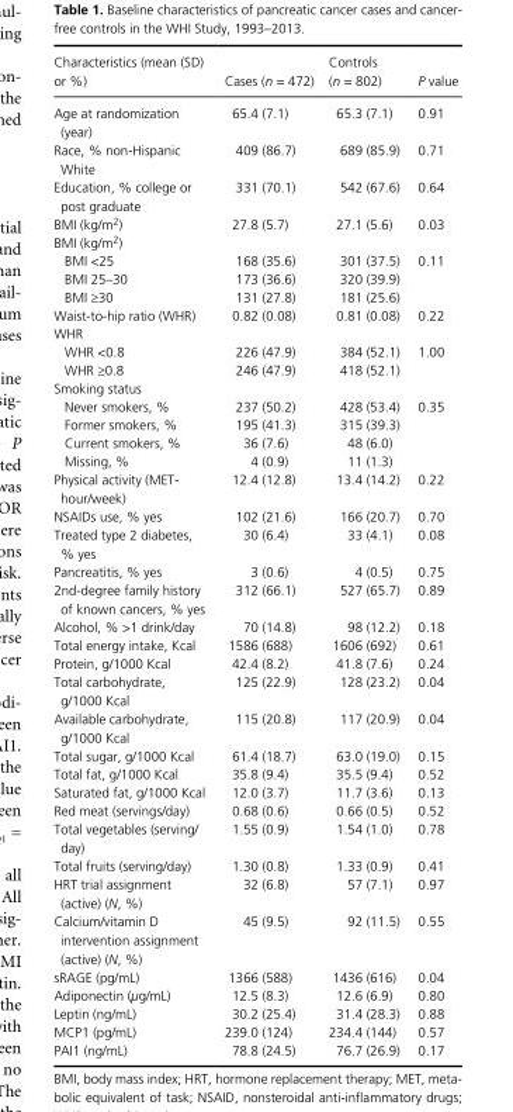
<table><thead><tr><td>Characteristics (mean (SD) or %)</td><td>Cases (n = 472)</td><td>Controls (n = 802)</td><td>P value</td></tr></thead><tbody><tr><td>Age at randomization (year)</td><td>65.4 (7.1)</td><td>65.3 (7.1)</td><td>0.91</td></tr><tr><td>Race, % non- Hispanic White</td><td>409 (86.7)</td><td>689 (85.9)</td><td>0.71</td></tr><tr><td>Education, % college or post graduate</td><td>331 (70.1)</td><td>542 (67.6)</td><td>0.64</td></tr><tr><td>BMI (kg/m<sup>2</sup>)</td><td>27.8 (5.7)</td><td>27.1 (5.6)</td><td>0.03</td></tr><tr><td colspan="4">BMI (kg/m<sup>2</sup>)</td></tr><tr><td>BMI &lt;25</td><td>168 (35.6)</td><td>301 (37.5)</td><td rowspan="3">0.11</td></tr><tr><td>BMI 25–30</td><td>173 (36.6)</td><td>320 (39.9)</td></tr><tr><td>BMI ≥30</td><td>131 (27.8)</td><td>181 (25.6)</td></tr><tr><td>Waist- to- hip ratio (WHR)</td><td>0.82 (0.08)</td><td>0.81 (0.08)</td><td>0.22</td></tr><tr><td colspan="4">WHR</td></tr><tr><td>WHR &lt;0.8</td><td>226 (47.9)</td><td>384 (52.1)</td><td rowspan="2">1.00</td></tr><tr><td>WHR ≥0.8</td><td>246 (47.9)</td><td>418 (52.1)</td></tr><tr><td colspan="4">Smoking status</td></tr><tr><td>Never smokers, %</td><td>237 (50.2)</td><td>428 (53.4)</td><td rowspan="4">0.35</td></tr><tr><td>Former smokers, %</td><td>195 (41.3)</td><td>315 (39.3)</td></tr><tr><td>Current smokers, %</td><td>36 (7.6)</td><td>48 (6.0)</td></tr><tr><td>Missing, %</td><td>4 (0.9)</td><td>11 (1.3)</td></tr><tr><td>Physical activity (MET- hour/week)</td><td>12.4 (12.8)</td><td>13.4 (14.2)</td><td>0.22</td></tr><tr><td>NSAIDs use, % yes</td><td>102 (21.6)</td><td>166 (20.7)</td><td>0.70</td></tr><tr><td>Treated type 2 diabetes, % yes</td><td>30 (6.4)</td><td>33 (4.1)</td><td>0.08</td></tr><tr><td>Pancreatitis, % yes</td><td>3 (0.6)</td><td>4 (0.5)</td><td>0.75</td></tr><tr><td>2nd- degree family history of known cancers, % yes</td><td>312 (66.1)</td><td>527 (65.7)</td><td>0.89</td></tr><tr><td>Alcohol, % &gt;1 drink/day</td><td>70 (14.8)</td><td>98 (12.2)</td><td>0.18</td></tr><tr><td>Total energy intake, Kcal</td><td>1586 (688)</td><td>1606 (692)</td><td>0.61</td></tr><tr><td>Protein, g/1000 Kcal</td><td>42.4 (8.2)</td><td>41.8 (7.6)</td><td>0.24</td></tr><tr><td>Total carbohydrate, g/1000 Kcal</td><td>125 (22.9)</td><td>128 (23.2)</td><td>0.04</td></tr><tr><td>Available carbohydrate, g/1000 Kcal</td><td>115 (20.8)</td><td>117 (20.9)</td><td>0.04</td></tr><tr><td>Total sugar, g/1000 Kcal</td><td>61.4 (18.7)</td><td>63.0 (19.0)</td><td>0.15</td></tr><tr><td>Total fat, g/1000 Kcal</td><td>35.8 (9.4)</td><td>35.5 (9.4)</td><td>0.52</td></tr><tr><td>Saturated fat, g/1000 Kcal</td><td>12.0 (3.7)</td><td>11.7 (3.6)</td><td>0.13</td></tr><tr><td>Red meat (servings/day)</td><td>0.68 (0.6)</td><td>0.66 (0.5)</td><td>0.52</td></tr><tr><td>Total vegetables (serving/ day)</td><td>1.55 (0.9)</td><td>1.54 (1.0)</td><td>0.78</td></tr><tr><td>Total fruits (serving/day)</td><td>1.30 (0.8)</td><td>1.33 (0.9)</td><td>0.41</td></tr><tr><td>HRT trial assignment (active) (N, %)</td><td>32 (6.8)</td><td>57 (7.1)</td><td>0.97</td></tr><tr><td>Calcium/vitamin D intervention assignment (active) (N, %)</td><td>45 (9.5)</td><td>92 (11.5)</td><td>0.55</td></tr><tr><td>sRAGE (pg/mL)</td><td>1366 (588)</td><td>1436 (616)</td><td>0.04</td></tr><tr><td>Adiponectin (μg/mL)</td><td>12.5 (8.3)</td><td>12.6 (6.9)</td><td>0.80</td></tr><tr><td>Leptin (ng/mL)</td><td>30.2 (25.4)</td><td>31.4 (28.3)</td><td>0.88</td></tr><tr><td>MCP1 (pg/mL)</td><td>239.0 (124)</td><td>234.4 (144)</td><td>0.57</td></tr><tr><td>PAI1 (ng/mL)</td><td>78.8 (24.5)</td><td>76.7 (26.9)</td><td>0.17</td></tr></tbody></table>